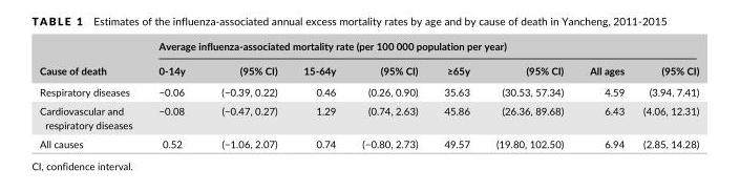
<table><thead><tr><td rowspan="2">Cause of death</td><td colspan="8">Average influenza- associated mortality rate (per 100 000 population per year)</td></tr><tr><td>0- 14y</td><td>(95% CI)</td><td>15- 64y</td><td>(95% CI)</td><td>≥65y</td><td>(95% CI)</td><td>All ages</td><td>(95% CI)</td></tr></thead><tbody><tr><td>Respiratory diseases</td><td>− 0.06</td><td>(−0.39, 0.22)</td><td>0.46</td><td>(0.26, 0.90)</td><td>35.63</td><td>(30.53, 57.34)</td><td>4.59</td><td>(3.94, 7.41)</td></tr><tr><td>Cardiovascular and respiratory diseases</td><td>− 0.08</td><td>(−0.47, 0.27)</td><td>1.29</td><td>(0.74, 2.63)</td><td>45.86</td><td>(26.36, 89.68)</td><td>6.43</td><td>(4.06, 12.31)</td></tr><tr><td>All causes</td><td>0.52</td><td>(−1.06, 2.07)</td><td>0.74</td><td>(−0.80, 2.73)</td><td>49.57</td><td>(19.80, 102.50)</td><td>6.94</td><td>(2.85, 14.28)</td></tr></tbody></table>